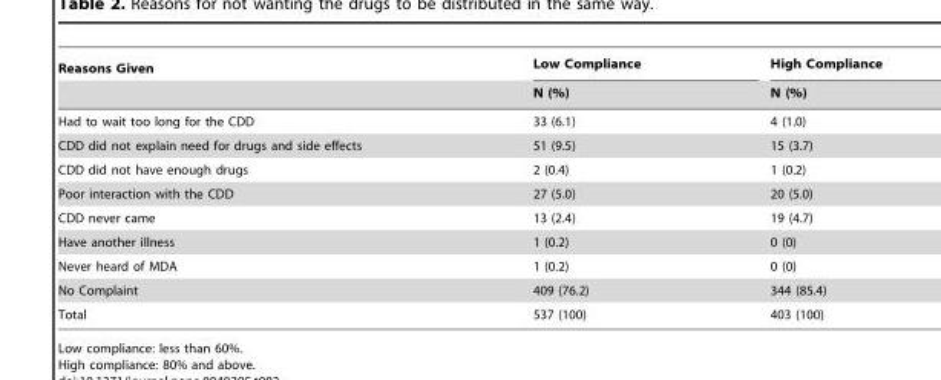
<table><thead><tr><td rowspan="2">Reasons Given</td><td rowspan="2">Low Compliance N (%)</td><td rowspan="2">High Compliance N (%)</td></tr><tr></tr></thead><tbody><tr><td>Had to wait too long for the CDD</td><td>33 (6.1)</td><td>4 (1.0)</td></tr><tr><td>CDD did not explain need for drugs and side effects</td><td>51 (9.5)</td><td>15 (3.7)</td></tr><tr><td>CDD did not have enough drugs</td><td>2 (0.4)</td><td>1 (0.2)</td></tr><tr><td>Poor interaction with the CDD</td><td>27 (5.0)</td><td>20 (5.0)</td></tr><tr><td>CDD never came</td><td>13 (2.4)</td><td>19 (4.7)</td></tr><tr><td>Have another illness</td><td>1 (0.2)</td><td>0 (0)</td></tr><tr><td>Never heard of MDA</td><td>1 (0.2)</td><td>0 (0)</td></tr><tr><td>No Complaint</td><td>409 (76.2)</td><td>344 (85.4)</td></tr><tr><td>Total</td><td>537 (100)</td><td>403 (100)</td></tr></tbody></table>